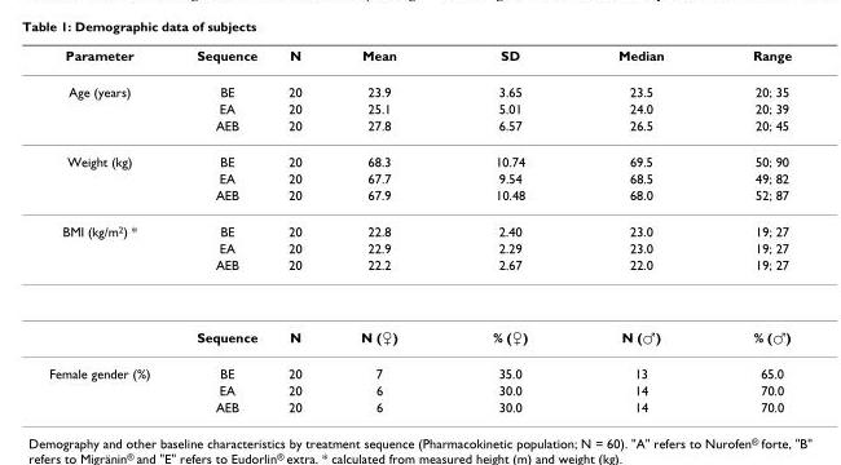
<table><thead><tr><td>Parameter</td><td>Sequence</td><td>N</td><td>Mean</td><td>SD</td><td>Median</td><td>Range</td></tr></thead><tbody><tr><td rowspan="3">Age (years)</td><td>BE</td><td>20</td><td>23.9</td><td>3.65</td><td>23.5</td><td>20; 35</td></tr><tr><td>EA</td><td>20</td><td>25.1</td><td>5.01</td><td>24.0</td><td>20; 39</td></tr><tr><td>AEB</td><td>20</td><td>27.8</td><td>6.57</td><td>26.5</td><td>20; 45</td></tr><tr><td rowspan="3">Weight (kg)</td><td>BE</td><td>20</td><td>68.3</td><td>10.74</td><td>69.5</td><td>50; 90</td></tr><tr><td>EA</td><td>20</td><td>67.7</td><td>9.54</td><td>68.5</td><td>49; 82</td></tr><tr><td>AEB</td><td>20</td><td>67.9</td><td>10.48</td><td>68.0</td><td>52; 87</td></tr><tr><td rowspan="4">BMI (kg/m<sup>2</sup>) *</td><td>BE</td><td>20</td><td>22.8</td><td>2.40</td><td>23.0</td><td>19; 27</td></tr><tr><td>EA</td><td>20</td><td>22.9</td><td>2.29</td><td>23.0</td><td>19; 27</td></tr><tr><td>AEB</td><td>20</td><td>22.2</td><td>2.67</td><td>22.0</td><td>19; 27</td></tr><tr><td>Sequence</td><td>N</td><td>N (♀)</td><td>% (♀)</td><td>N (♂)</td><td>% (♂)</td></tr><tr><td rowspan="3">Female gender (%)</td><td>BE</td><td>20</td><td>7</td><td>35.0</td><td>13</td><td>65.0</td></tr><tr><td>EA</td><td>20</td><td>6</td><td>30.0</td><td>14</td><td>70.0</td></tr><tr><td>AEB</td><td>20</td><td>6</td><td>30.0</td><td>14</td><td>70.0</td></tr></tbody></table>